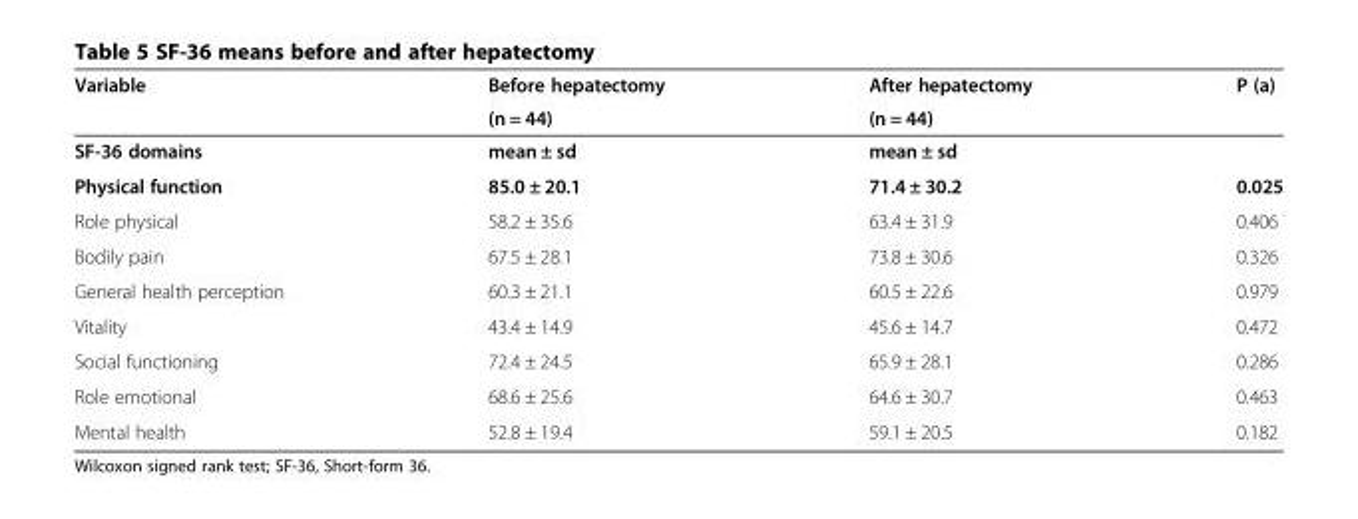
<table><thead><tr><td rowspan="2">Variable</td><td rowspan="2">Before hepatectomy (n = 44)</td><td rowspan="2">After hepatectomy (n = 44)</td><td rowspan="2">P (a)</td></tr><tr></tr></thead><tbody><tr><td>SF-36 domains</td><td>mean ± sd</td><td>mean ± sd</td><td></td></tr><tr><td>Physical function</td><td>85.0 ± 20.1</td><td>71.4 ± 30.2</td><td>0.025</td></tr><tr><td>Role physical</td><td>58.2 ± 35.6</td><td>63.4 ± 31.9</td><td>0.406</td></tr><tr><td>Bodily pain</td><td>67.5 ± 28.1</td><td>73.8 ± 30.6</td><td>0.326</td></tr><tr><td>General health perception</td><td>60.3 ± 21.1</td><td>60.5 ± 22.6</td><td>0.979</td></tr><tr><td>Vitality</td><td>43.4 ± 14.9</td><td>45.6 ± 14.7</td><td>0.472</td></tr><tr><td>Social functioning</td><td>72.4 ± 24.5</td><td>65.9 ± 28.1</td><td>0.286</td></tr><tr><td>Role emotional</td><td>68.6 ± 25.6</td><td>64.6 ± 30.7</td><td>0.463</td></tr><tr><td>Mental health</td><td>52.8 ± 19.4</td><td>59.1 ± 20.5</td><td>0.182</td></tr></tbody></table>